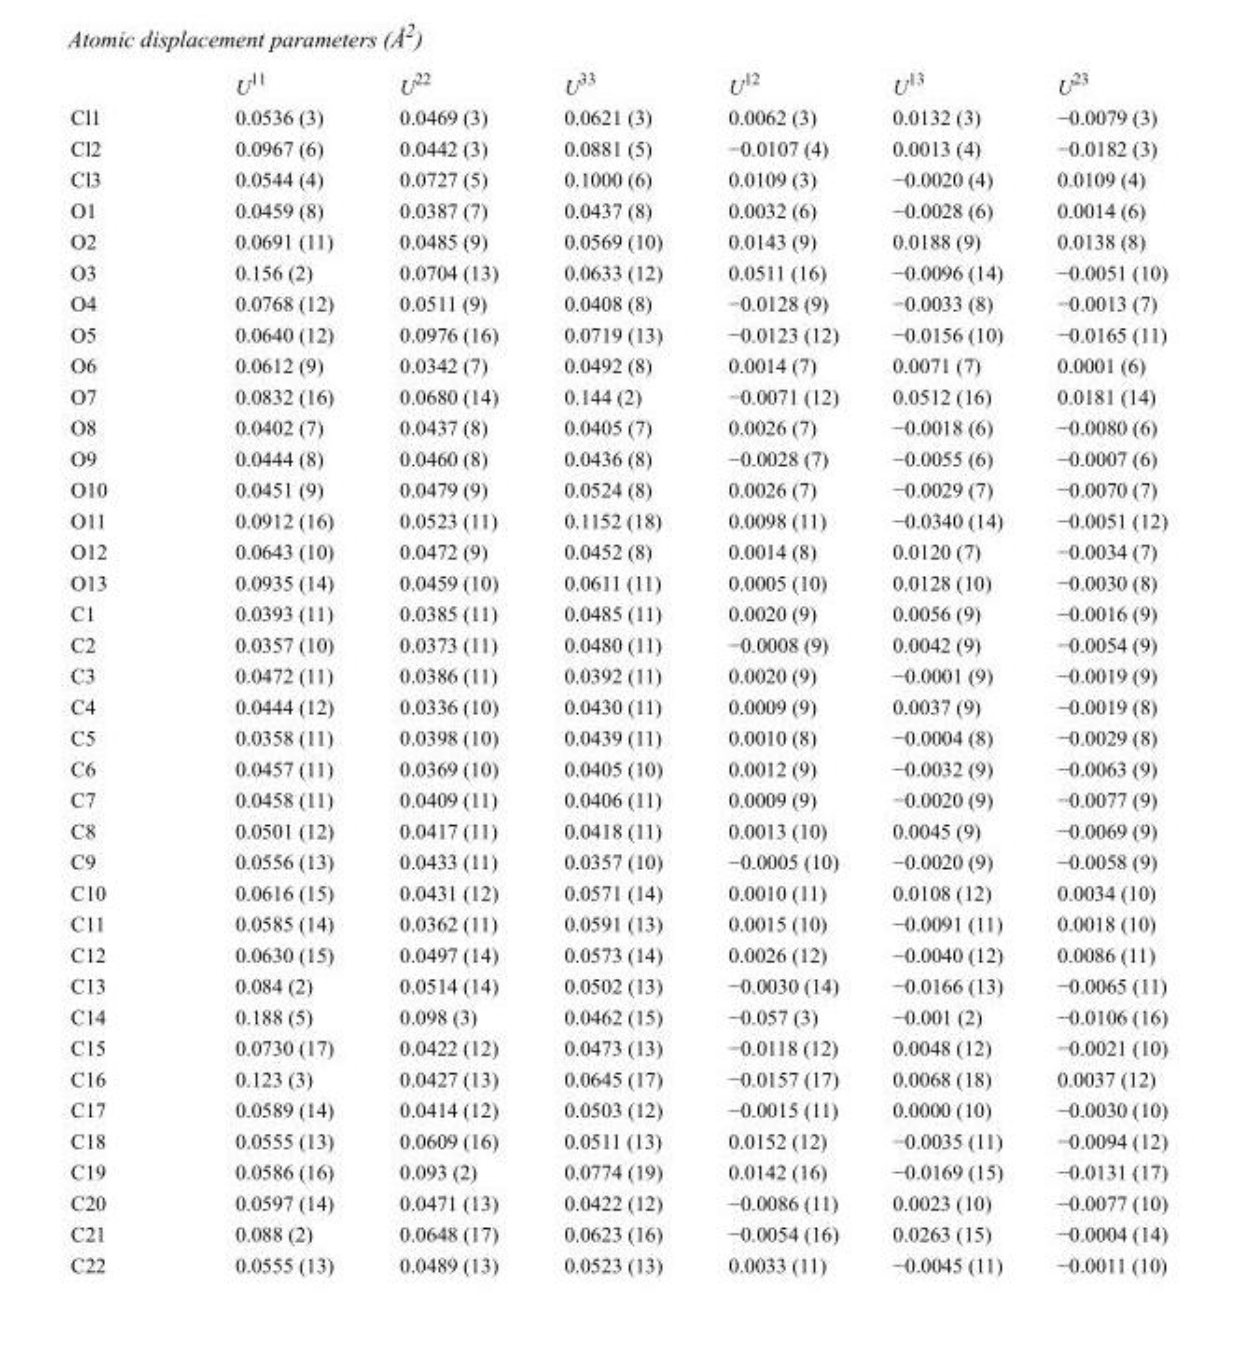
<table><thead><tr><td></td><td>U<sup>11</sup></td><td>U<sup>22</sup></td><td>U<sup>33</sup></td><td>U<sup>12</sup></td><td>U<sup>13</sup></td><td>U<sup>23</sup></td></tr></thead><tbody><tr><td>Cl1</td><td>0.0536 (3)</td><td>0.0469 (3)</td><td>0.0621 (3)</td><td>0.0062 (3)</td><td>0.0132 (3)</td><td>−0.0079 (3)</td></tr><tr><td>Cl2</td><td>0.0967 (6)</td><td>0.0442 (3)</td><td>0.0881 (5)</td><td>−0.0107 (4)</td><td>0.0013 (4)</td><td>−0.0182 (3)</td></tr><tr><td>Cl3</td><td>0.0544 (4)</td><td>0.0727 (5)</td><td>0.1000 (6)</td><td>0.0109 (3)</td><td>−0.0020 (4)</td><td>0.0109 (4)</td></tr><tr><td>O1</td><td>0.0459 (8)</td><td>0.0387 (7)</td><td>0.0437 (8)</td><td>0.0032 (6)</td><td>−0.0028 (6)</td><td>0.0014 (6)</td></tr><tr><td>O2</td><td>0.0691 (11)</td><td>0.0485 (9)</td><td>0.0569 (10)</td><td>0.0143 (9)</td><td>0.0188 (9)</td><td>0.0138 (8)</td></tr><tr><td>O3</td><td>0.156 (2)</td><td>0.0704 (13)</td><td>0.0633 (12)</td><td>0.0511 (16)</td><td>−0.0096 (14)</td><td>−0.0051 (10)</td></tr><tr><td>O4</td><td>0.0768 (12)</td><td>0.0511 (9)</td><td>0.0408 (8)</td><td>−0.0128 (9)</td><td>−0.0033 (8)</td><td>−0.0013 (7)</td></tr><tr><td>O5</td><td>0.0640 (12)</td><td>0.0976 (16)</td><td>0.0719 (13)</td><td>−0.0123 (12)</td><td>−0.0156 (10)</td><td>−0.0165 (11)</td></tr><tr><td>O6</td><td>0.0612 (9)</td><td>0.0342 (7)</td><td>0.0492 (8)</td><td>0.0014 (7)</td><td>0.0071 (7)</td><td>0.0001 (6)</td></tr><tr><td>O7</td><td>0.0832 (16)</td><td>0.0680 (14)</td><td>0.144 (2)</td><td>−0.0071 (12)</td><td>0.0512 (16)</td><td>0.0181 (14)</td></tr><tr><td>O8</td><td>0.0402 (7)</td><td>0.0437 (8)</td><td>0.0405 (7)</td><td>0.0026 (7)</td><td>−0.0018 (6)</td><td>−0.0080 (6)</td></tr><tr><td>O9</td><td>0.0444 (8)</td><td>0.0460 (8)</td><td>0.0436 (8)</td><td>−0.0028 (7)</td><td>−0.0055 (6)</td><td>−0.0007 (6)</td></tr><tr><td>O10</td><td>0.0451 (9)</td><td>0.0479 (9)</td><td>0.0524 (8)</td><td>0.0026 (7)</td><td>−0.0029 (7)</td><td>−0.0070 (7)</td></tr><tr><td>O11</td><td>0.0912 (16)</td><td>0.0523 (11)</td><td>0.1152 (18)</td><td>0.0098 (11)</td><td>−0.0340 (14)</td><td>−0.0051 (12)</td></tr><tr><td>O12</td><td>0.0643 (10)</td><td>0.0472 (9)</td><td>0.0452 (8)</td><td>0.0014 (8)</td><td>0.0120 (7)</td><td>−0.0034 (7)</td></tr><tr><td>O13</td><td>0.0935 (14)</td><td>0.0459 (10)</td><td>0.0611 (11)</td><td>0.0005 (10)</td><td>0.0128 (10)</td><td>−0.0030 (8)</td></tr><tr><td>C1</td><td>0.0393 (11)</td><td>0.0385 (11)</td><td>0.0485 (11)</td><td>0.0020 (9)</td><td>0.0056 (9)</td><td>−0.0016 (9)</td></tr><tr><td>C2</td><td>0.0357 (10)</td><td>0.0373 (11)</td><td>0.0480 (11)</td><td>−0.0008 (9)</td><td>0.0042 (9)</td><td>−0.0054 (9)</td></tr><tr><td>C3</td><td>0.0472 (11)</td><td>0.0386 (11)</td><td>0.0392 (11)</td><td>0.0020 (9)</td><td>−0.0001 (9)</td><td>−0.0019 (9)</td></tr><tr><td>C4</td><td>0.0444 (12)</td><td>0.0336 (10)</td><td>0.0430 (11)</td><td>0.0009 (9)</td><td>0.0037 (9)</td><td>−0.0019 (8)</td></tr><tr><td>C5</td><td>0.0358 (11)</td><td>0.0398 (10)</td><td>0.0439 (11)</td><td>0.0010 (8)</td><td>−0.0004 (8)</td><td>−0.0029 (8)</td></tr><tr><td>C6</td><td>0.0457 (11)</td><td>0.0369 (10)</td><td>0.0405 (10)</td><td>0.0012 (9)</td><td>−0.0032 (9)</td><td>−0.0063 (9)</td></tr><tr><td>C7</td><td>0.0458 (11)</td><td>0.0409 (11)</td><td>0.0406 (11)</td><td>0.0009 (9)</td><td>−0.0020 (9)</td><td>−0.0077 (9)</td></tr><tr><td>C8</td><td>0.0501 (12)</td><td>0.0417 (11)</td><td>0.0418 (11)</td><td>0.0013 (10)</td><td>0.0045 (9)</td><td>−0.0069 (9)</td></tr><tr><td>C9</td><td>0.0556 (13)</td><td>0.0433 (11)</td><td>0.0357 (10)</td><td>−0.0005 (10)</td><td>−0.0020 (9)</td><td>−0.0058 (9)</td></tr><tr><td>C10</td><td>0.0616 (15)</td><td>0.0431 (12)</td><td>0.0571 (14)</td><td>0.0010 (11)</td><td>0.0108 (12)</td><td>0.0034 (10)</td></tr><tr><td>C11</td><td>0.0585 (14)</td><td>0.0362 (11)</td><td>0.0591 (13)</td><td>0.0015 (10)</td><td>−0.0091 (11)</td><td>0.0018 (10)</td></tr><tr><td>C12</td><td>0.0630 (15)</td><td>0.0497 (14)</td><td>0.0573 (14)</td><td>0.0026 (12)</td><td>−0.0040 (12)</td><td>0.0086 (11)</td></tr><tr><td>C13</td><td>0.084 (2)</td><td>0.0514 (14)</td><td>0.0502 (13)</td><td>−0.0030 (14)</td><td>−0.0166 (13)</td><td>−0.0065 (11)</td></tr><tr><td>C14</td><td>0.188 (5)</td><td>0.098 (3)</td><td>0.0462 (15)</td><td>−0.057 (3)</td><td>−0.001 (2)</td><td>−0.0106 (16)</td></tr><tr><td>C15</td><td>0.0730 (17)</td><td>0.0422 (12)</td><td>0.0473 (13)</td><td>−0.0118 (12)</td><td>0.0048 (12)</td><td>−0.0021 (10)</td></tr><tr><td>C16</td><td>0.123 (3)</td><td>0.0427 (13)</td><td>0.0645 (17)</td><td>−0.0157 (17)</td><td>0.0068 (18)</td><td>0.0037 (12)</td></tr><tr><td>C17</td><td>0.0589 (14)</td><td>0.0414 (12)</td><td>0.0503 (12)</td><td>−0.0015 (11)</td><td>0.0000 (10)</td><td>−0.0030 (10)</td></tr><tr><td>C18</td><td>0.0555 (13)</td><td>0.0609 (16)</td><td>0.0511 (13)</td><td>0.0152 (12)</td><td>−0.0035 (11)</td><td>−0.0094 (12)</td></tr><tr><td>C19</td><td>0.0586 (16)</td><td>0.093 (2)</td><td>0.0774 (19)</td><td>0.0142 (16)</td><td>−0.0169 (15)</td><td>−0.0131 (17)</td></tr><tr><td>C20</td><td>0.0597 (14)</td><td>0.0471 (13)</td><td>0.0422 (12)</td><td>−0.0086 (11)</td><td>0.0023 (10)</td><td>−0.0077 (10)</td></tr><tr><td>C21</td><td>0.088 (2)</td><td>0.0648 (17)</td><td>0.0623 (16)</td><td>−0.0054 (16)</td><td>0.0263 (15)</td><td>−0.0004 (14)</td></tr><tr><td>C22</td><td>0.0555 (13)</td><td>0.0489 (13)</td><td>0.0523 (13)</td><td>0.0033 (11)</td><td>−0.0045 (11)</td><td>−0.0011 (10)</td></tr></tbody></table>